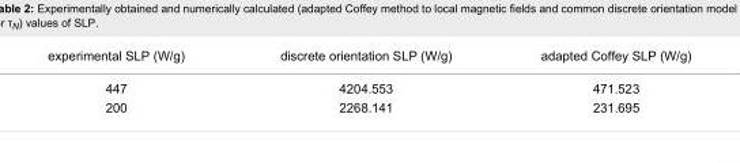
<table><tbody><tr><td>experimental SLP (W/g)</td><td>discrete orientation SLP (W/g)</td><td>adapted Coffey SLP (W/g)</td></tr><tr><td>447</td><td>4204.553</td><td>471.523</td></tr><tr><td>200</td><td>2268.141</td><td>231.695</td></tr></tbody></table>